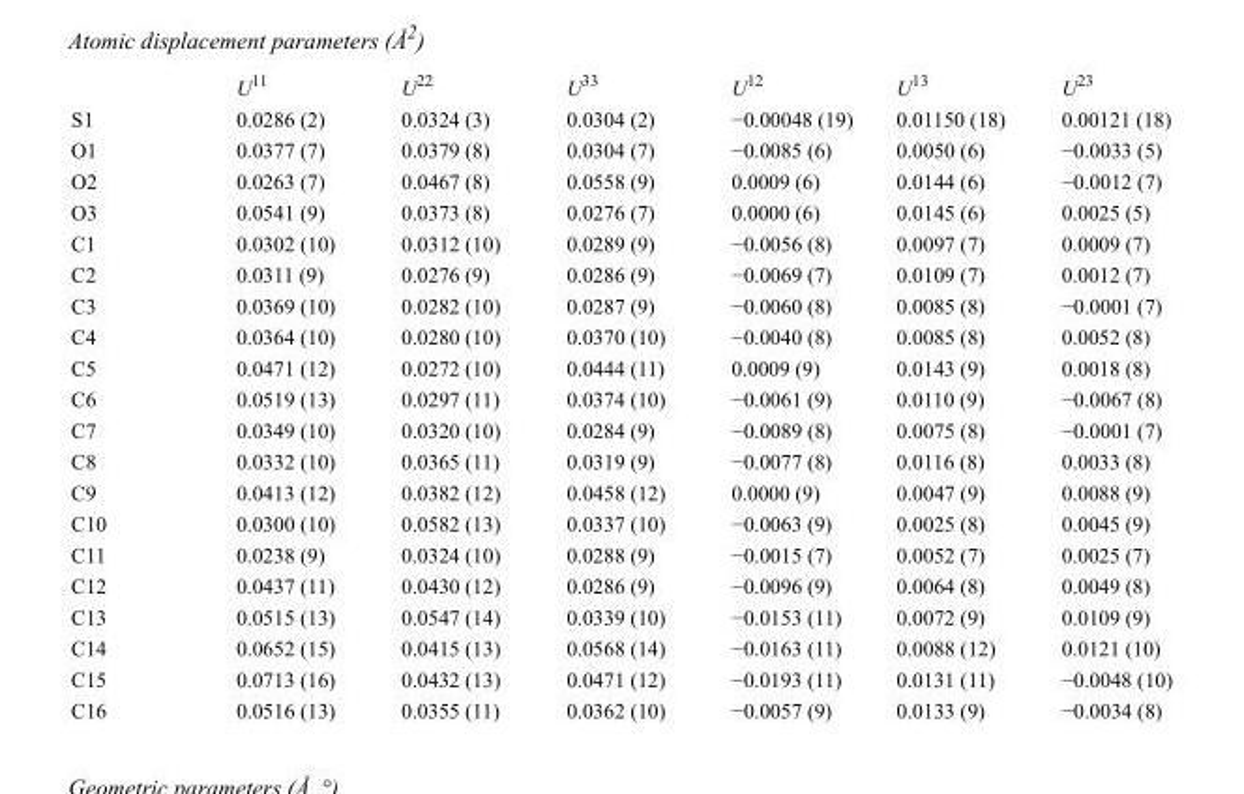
<table><thead><tr><td></td><td>U<sup>11</sup></td><td>U<sup>22</sup></td><td>U<sup>33</sup></td><td>U<sup>12</sup></td><td>U<sup>13</sup></td><td>U<sup>23</sup></td></tr></thead><tbody><tr><td>S1</td><td>0.0286 (2)</td><td>0.0324 (3)</td><td>0.0304 (2)</td><td>−0.00048 (19)</td><td>0.01150 (18)</td><td>0.00121 (18)</td></tr><tr><td>O1</td><td>0.0377 (7)</td><td>0.0379 (8)</td><td>0.0304 (7)</td><td>−0.0085 (6)</td><td>0.0050 (6)</td><td>−0.0033 (5)</td></tr><tr><td>O2</td><td>0.0263 (7)</td><td>0.0467 (8)</td><td>0.0558 (9)</td><td>0.0009 (6)</td><td>0.0144 (6)</td><td>−0.0012 (7)</td></tr><tr><td>O3</td><td>0.0541 (9)</td><td>0.0373 (8)</td><td>0.0276 (7)</td><td>0.0000 (6)</td><td>0.0145 (6)</td><td>0.0025 (5)</td></tr><tr><td>C1</td><td>0.0302 (10)</td><td>0.0312 (10)</td><td>0.0289 (9)</td><td>−0.0056 (8)</td><td>0.0097 (7)</td><td>0.0009 (7)</td></tr><tr><td>C2</td><td>0.0311 (9)</td><td>0.0276 (9)</td><td>0.0286 (9)</td><td>−0.0069 (7)</td><td>0.0109 (7)</td><td>0.0012 (7)</td></tr><tr><td>C3</td><td>0.0369 (10)</td><td>0.0282 (10)</td><td>0.0287 (9)</td><td>−0.0060 (8)</td><td>0.0085 (8)</td><td>−0.0001 (7)</td></tr><tr><td>C4</td><td>0.0364 (10)</td><td>0.0280 (10)</td><td>0.0370 (10)</td><td>−0.0040 (8)</td><td>0.0085 (8)</td><td>0.0052 (8)</td></tr><tr><td>C5</td><td>0.0471 (12)</td><td>0.0272 (10)</td><td>0.0444 (11)</td><td>0.0009 (9)</td><td>0.0143 (9)</td><td>0.0018 (8)</td></tr><tr><td>C6</td><td>0.0519 (13)</td><td>0.0297 (11)</td><td>0.0374 (10)</td><td>−0.0061 (9)</td><td>0.0110 (9)</td><td>−0.0067 (8)</td></tr><tr><td>C7</td><td>0.0349 (10)</td><td>0.0320 (10)</td><td>0.0284 (9)</td><td>−0.0089 (8)</td><td>0.0075 (8)</td><td>−0.0001 (7)</td></tr><tr><td>C8</td><td>0.0332 (10)</td><td>0.0365 (11)</td><td>0.0319 (9)</td><td>−0.0077 (8)</td><td>0.0116 (8)</td><td>0.0033 (8)</td></tr><tr><td>C9</td><td>0.0413 (12)</td><td>0.0382 (12)</td><td>0.0458 (12)</td><td>0.0000 (9)</td><td>0.0047 (9)</td><td>0.0088 (9)</td></tr><tr><td>C10</td><td>0.0300 (10)</td><td>0.0582 (13)</td><td>0.0337 (10)</td><td>−0.0063 (9)</td><td>0.0025 (8)</td><td>0.0045 (9)</td></tr><tr><td>C11</td><td>0.0238 (9)</td><td>0.0324 (10)</td><td>0.0288 (9)</td><td>−0.0015 (7)</td><td>0.0052 (7)</td><td>0.0025 (7)</td></tr><tr><td>C12</td><td>0.0437 (11)</td><td>0.0430 (12)</td><td>0.0286 (9)</td><td>−0.0096 (9)</td><td>0.0064 (8)</td><td>0.0049 (8)</td></tr><tr><td>C13</td><td>0.0515 (13)</td><td>0.0547 (14)</td><td>0.0339 (10)</td><td>−0.0153 (11)</td><td>0.0072 (9)</td><td>0.0109 (9)</td></tr><tr><td>C14</td><td>0.0652 (15)</td><td>0.0415 (13)</td><td>0.0568 (14)</td><td>−0.0163 (11)</td><td>0.0088 (12)</td><td>0.0121 (10)</td></tr><tr><td>C15</td><td>0.0713 (16)</td><td>0.0432 (13)</td><td>0.0471 (12)</td><td>−0.0193 (11)</td><td>0.0131 (11)</td><td>−0.0048 (10)</td></tr><tr><td>C16</td><td>0.0516 (13)</td><td>0.0355 (11)</td><td>0.0362 (10)</td><td>−0.0057 (9)</td><td>0.0133 (9)</td><td>−0.0034 (8)</td></tr></tbody></table>